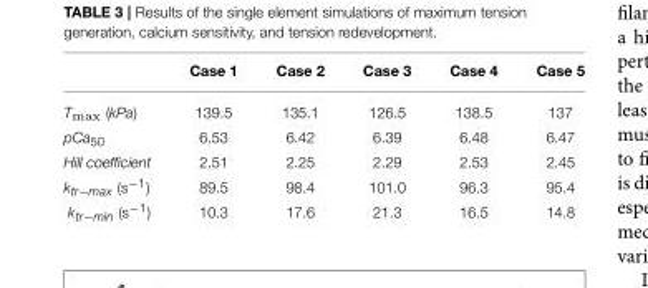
<table><thead><tr><td></td><td>Case 1</td><td>Case 2</td><td>Case 3</td><td>Case 4</td><td>Case 5</td></tr></thead><tbody><tr><td>T<sub>max</sub> (kPa)</td><td>139.5</td><td>135.1</td><td>126.5</td><td>138.5</td><td>137</td></tr><tr><td>pCa<sub>50</sub></td><td>6.53</td><td>6.42</td><td>6.39</td><td>6.48</td><td>6.47</td></tr><tr><td>Hill coefficient</td><td>2.51</td><td>2.25</td><td>2.29</td><td>2.53</td><td>2.45</td></tr><tr><td>k<sub>tr−max</sub> (s<sup>−1</sup>)</td><td>89.5</td><td>98.4</td><td>101.0</td><td>96.3</td><td>95.4</td></tr><tr><td>k<sub>tr−min</sub> (s<sup>−1</sup>)</td><td>10.3</td><td>17.6</td><td>21.3</td><td>16.5</td><td>14.8</td></tr></tbody></table>